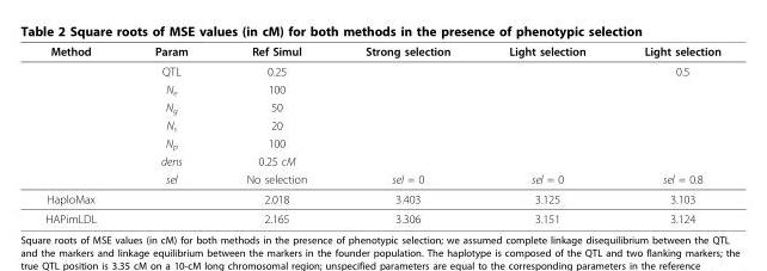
<table><thead><tr><td>Method</td><td>Param</td><td>Ref Simul</td><td>Strong selection</td><td>Light selection</td><td>Light selection</td></tr></thead><tbody><tr><td></td><td>QTL</td><td>0.25</td><td></td><td></td><td>0.5</td></tr><tr><td></td><td>N<sub>e</sub></td><td>100</td><td></td><td></td><td></td></tr><tr><td></td><td>N<sub>g</sub></td><td>50</td><td></td><td></td><td></td></tr><tr><td></td><td>N<sub>s</sub></td><td>20</td><td></td><td></td><td></td></tr><tr><td></td><td>N<sub>p</sub></td><td>100</td><td></td><td></td><td></td></tr><tr><td></td><td>dens</td><td>0.25 cM</td><td></td><td></td><td></td></tr><tr><td></td><td>sel</td><td>No selection</td><td>sel = 0</td><td>sel = 0</td><td>sel = 0.8</td></tr><tr><td>HaploMax</td><td></td><td>2.018</td><td>3.403</td><td>3.125</td><td>3.103</td></tr><tr><td>HAPimLDL</td><td></td><td>2.165</td><td>3.306</td><td>3.151</td><td>3.124</td></tr></tbody></table>